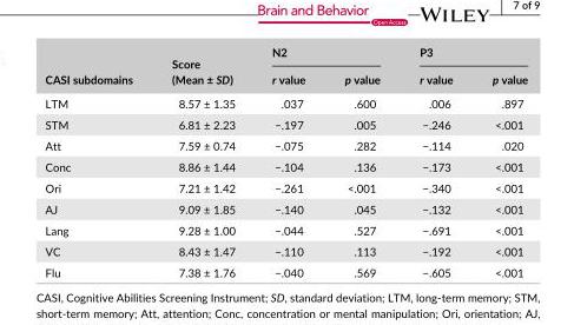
<table><thead><tr><td rowspan="2">CASI subdomains</td><td rowspan="2">Score (Mean ± SD)</td><td colspan="2">N2</td><td colspan="2">P3</td></tr><tr><td>r value</td><td>p value</td><td>r value</td><td>p value</td></tr></thead><tbody><tr><td>LTM</td><td>8.57 ± 1.35</td><td>.037</td><td>.600</td><td>.006</td><td>.897</td></tr><tr><td>STM</td><td>6.81 ± 2.23</td><td>−.197</td><td>.005</td><td>−.246</td><td>&lt;.001</td></tr><tr><td>Att</td><td>7.59 ± 0.74</td><td>−.075</td><td>.282</td><td>−.114</td><td>.020</td></tr><tr><td>Conc</td><td>8.86 ± 1.44</td><td>−.104</td><td>.136</td><td>−.173</td><td>&lt;.001</td></tr><tr><td>Ori</td><td>7.21 ± 1.42</td><td>−.261</td><td>&lt;.001</td><td>−.340</td><td>&lt;.001</td></tr><tr><td>AJ</td><td>9.09 ± 1.85</td><td>−.140</td><td>.045</td><td>−.132</td><td>&lt;.001</td></tr><tr><td>Lang</td><td>9.28 ± 1.00</td><td>−.044</td><td>.527</td><td>−.691</td><td>&lt;.001</td></tr><tr><td>VC</td><td>8.43 ± 1.47</td><td>−.110</td><td>.113</td><td>−.192</td><td>&lt;.001</td></tr><tr><td>Flu</td><td>7.38 ± 1.76</td><td>−.040</td><td>.569</td><td>−.605</td><td>&lt;.001</td></tr></tbody></table>